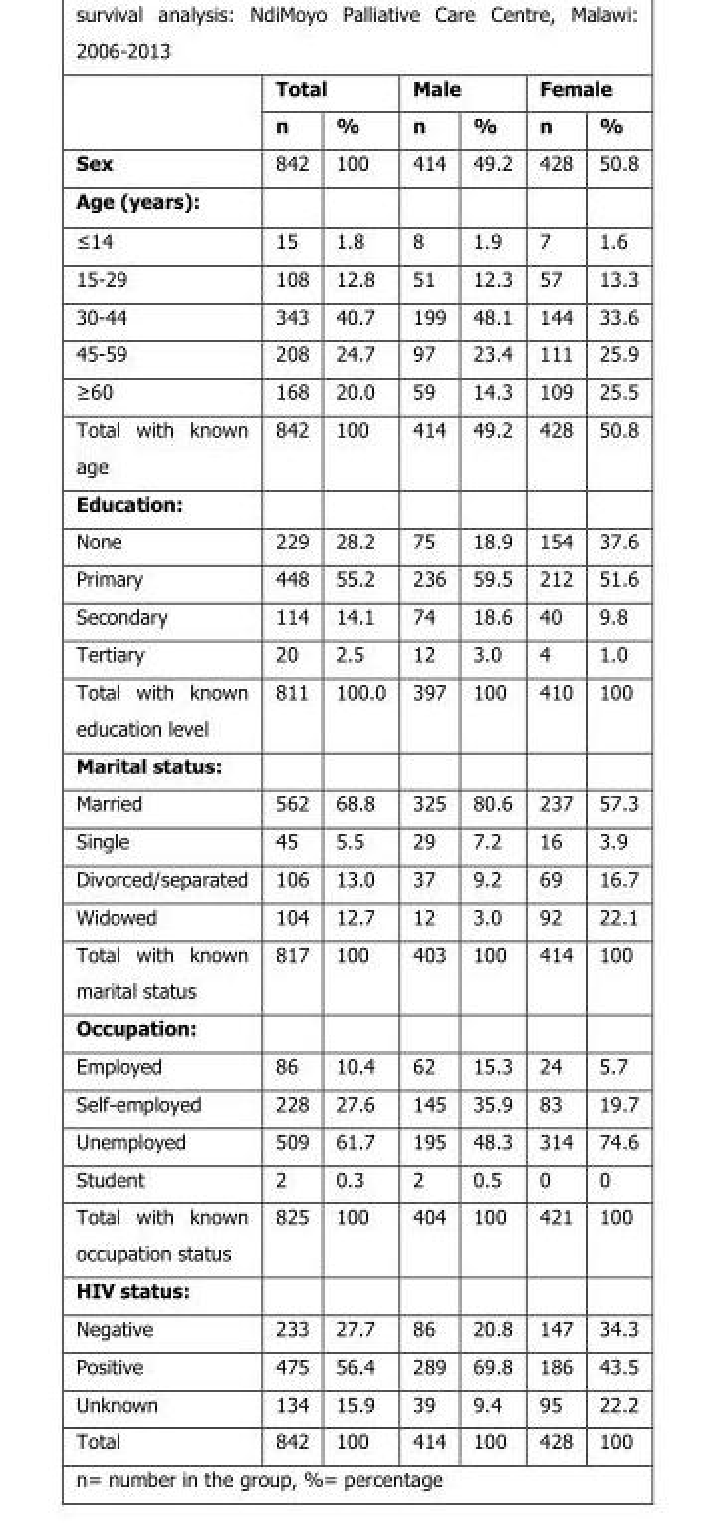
<table><thead><tr><td rowspan="2"></td><td colspan="2">Total</td><td colspan="2">Male</td><td colspan="2">Female</td></tr><tr><td>n</td><td>%</td><td>n</td><td>%</td><td>n</td><td>%</td></tr></thead><tbody><tr><td>Sex</td><td>842</td><td>100</td><td>414</td><td>49.2</td><td>428</td><td>50.8</td></tr><tr><td colspan="7">Age (years):</td></tr><tr><td>≤14</td><td>15</td><td>1.8</td><td>8</td><td>1.9</td><td>7</td><td>1.6</td></tr><tr><td>15-29</td><td>108</td><td>12.8</td><td>51</td><td>12.3</td><td>57</td><td>13.3</td></tr><tr><td>30-44</td><td>343</td><td>40.7</td><td>199</td><td>48.1</td><td>144</td><td>33.6</td></tr><tr><td>45-59</td><td>208</td><td>24.7</td><td>97</td><td>23.4</td><td>111</td><td>25.9</td></tr><tr><td>≥60</td><td>168</td><td>20.0</td><td>59</td><td>14.3</td><td>109</td><td>25.5</td></tr><tr><td>Total with known age</td><td>842</td><td>100</td><td>414</td><td>49.2</td><td>428</td><td>50.8</td></tr><tr><td colspan="7">Education:</td></tr><tr><td>None</td><td>229</td><td>28.2</td><td>75</td><td>18.9</td><td>154</td><td>37.6</td></tr><tr><td>Primary</td><td>448</td><td>55.2</td><td>236</td><td>59.5</td><td>212</td><td>51.6</td></tr><tr><td>Secondary</td><td>114</td><td>14.1</td><td>74</td><td>18.6</td><td>40</td><td>9.8</td></tr><tr><td>Tertiary</td><td>20</td><td>2.5</td><td>12</td><td>3.0</td><td>4</td><td>1.0</td></tr><tr><td>Total with known education level</td><td>811</td><td>100.0</td><td>397</td><td>100</td><td>410</td><td>100</td></tr><tr><td colspan="7">Marital status:</td></tr><tr><td>Married</td><td>562</td><td>68.8</td><td>325</td><td>80.6</td><td>237</td><td>57.3</td></tr><tr><td>Single</td><td>45</td><td>5.5</td><td>29</td><td>7.2</td><td>16</td><td>3.9</td></tr><tr><td>Divorced/separated</td><td>106</td><td>13.0</td><td>37</td><td>9.2</td><td>69</td><td>16.7</td></tr><tr><td>Widowed</td><td>104</td><td>12.7</td><td>12</td><td>3.0</td><td>92</td><td>22.1</td></tr><tr><td>Total with known marital status</td><td>817</td><td>100</td><td>403</td><td>100</td><td>414</td><td>100</td></tr><tr><td colspan="7">Occupation:</td></tr><tr><td>Employed</td><td>86</td><td>10.4</td><td>62</td><td>15.3</td><td>24</td><td>5.7</td></tr><tr><td>Self-employed</td><td>228</td><td>27.6</td><td>145</td><td>35.9</td><td>83</td><td>19.7</td></tr><tr><td>Unemployed</td><td>509</td><td>61.7</td><td>195</td><td>48.3</td><td>314</td><td>74.6</td></tr><tr><td>Student</td><td>2</td><td>0.3</td><td>2</td><td>0.5</td><td>0</td><td>0</td></tr><tr><td>Total with known occupation status</td><td>825</td><td>100</td><td>404</td><td>100</td><td>421</td><td>100</td></tr><tr><td colspan="7">HIV status:</td></tr><tr><td>Negative</td><td>233</td><td>27.7</td><td>86</td><td>20.8</td><td>147</td><td>34.3</td></tr><tr><td>Positive</td><td>475</td><td>56.4</td><td>289</td><td>69.8</td><td>186</td><td>43.5</td></tr><tr><td>Unknown</td><td>134</td><td>15.9</td><td>39</td><td>9.4</td><td>95</td><td>22.2</td></tr><tr><td>Total</td><td>842</td><td>100</td><td>414</td><td>100</td><td>428</td><td>100</td></tr></tbody></table>